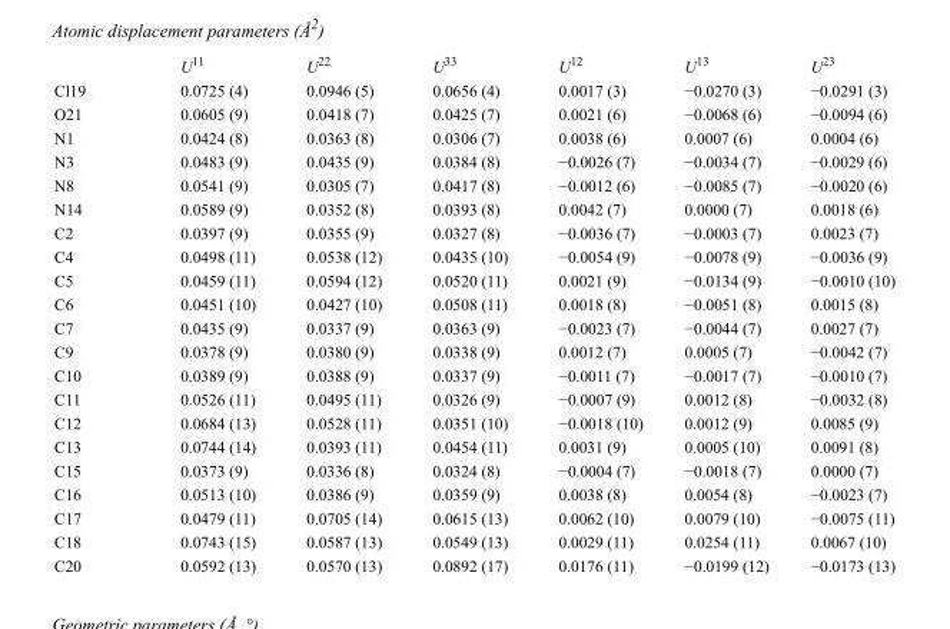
<table><thead><tr><td></td><td>U<sup>11</sup></td><td>U<sup>22</sup></td><td>U<sup>33</sup></td><td>U<sup>12</sup></td><td>U<sup>13</sup></td><td>U<sup>23</sup></td></tr></thead><tbody><tr><td>Cl19</td><td>0.0725 (4)</td><td>0.0946 (5)</td><td>0.0656 (4)</td><td>0.0017 (3)</td><td>−0.0270 (3)</td><td>−0.0291 (3)</td></tr><tr><td>O21</td><td>0.0605 (9)</td><td>0.0418 (7)</td><td>0.0425 (7)</td><td>0.0021 (6)</td><td>−0.0068 (6)</td><td>−0.0094 (6)</td></tr><tr><td>N1</td><td>0.0424 (8)</td><td>0.0363 (8)</td><td>0.0306 (7)</td><td>0.0038 (6)</td><td>0.0007 (6)</td><td>0.0004 (6)</td></tr><tr><td>N3</td><td>0.0483 (9)</td><td>0.0435 (9)</td><td>0.0384 (8)</td><td>−0.0026 (7)</td><td>−0.0034 (7)</td><td>−0.0029 (6)</td></tr><tr><td>N8</td><td>0.0541 (9)</td><td>0.0305 (7)</td><td>0.0417 (8)</td><td>−0.0012 (6)</td><td>−0.0085 (7)</td><td>−0.0020 (6)</td></tr><tr><td>N14</td><td>0.0589 (9)</td><td>0.0352 (8)</td><td>0.0393 (8)</td><td>0.0042 (7)</td><td>0.0000 (7)</td><td>0.0018 (6)</td></tr><tr><td>C2</td><td>0.0397 (9)</td><td>0.0355 (9)</td><td>0.0327 (8)</td><td>−0.0036 (7)</td><td>−0.0003 (7)</td><td>0.0023 (7)</td></tr><tr><td>C4</td><td>0.0498 (11)</td><td>0.0538 (12)</td><td>0.0435 (10)</td><td>−0.0054 (9)</td><td>−0.0078 (9)</td><td>−0.0036 (9)</td></tr><tr><td>C5</td><td>0.0459 (11)</td><td>0.0594 (12)</td><td>0.0520 (11)</td><td>0.0021 (9)</td><td>−0.0134 (9)</td><td>−0.0010 (10)</td></tr><tr><td>C6</td><td>0.0451 (10)</td><td>0.0427 (10)</td><td>0.0508 (11)</td><td>0.0018 (8)</td><td>−0.0051 (8)</td><td>0.0015 (8)</td></tr><tr><td>C7</td><td>0.0435 (9)</td><td>0.0337 (9)</td><td>0.0363 (9)</td><td>−0.0023 (7)</td><td>−0.0044 (7)</td><td>0.0027 (7)</td></tr><tr><td>C9</td><td>0.0378 (9)</td><td>0.0380 (9)</td><td>0.0338 (9)</td><td>0.0012 (7)</td><td>0.0005 (7)</td><td>−0.0042 (7)</td></tr><tr><td>C10</td><td>0.0389 (9)</td><td>0.0388 (9)</td><td>0.0337 (9)</td><td>−0.0011 (7)</td><td>−0.0017 (7)</td><td>−0.0010 (7)</td></tr><tr><td>C11</td><td>0.0526 (11)</td><td>0.0495 (11)</td><td>0.0326 (9)</td><td>−0.0007 (9)</td><td>0.0012 (8)</td><td>−0.0032 (8)</td></tr><tr><td>C12</td><td>0.0684 (13)</td><td>0.0528 (11)</td><td>0.0351 (10)</td><td>−0.0018 (10)</td><td>0.0012 (9)</td><td>0.0085 (9)</td></tr><tr><td>C13</td><td>0.0744 (14)</td><td>0.0393 (11)</td><td>0.0454 (11)</td><td>0.0031 (9)</td><td>0.0005 (10)</td><td>0.0091 (8)</td></tr><tr><td>C15</td><td>0.0373 (9)</td><td>0.0336 (8)</td><td>0.0324 (8)</td><td>−0.0004 (7)</td><td>−0.0018 (7)</td><td>0.0000 (7)</td></tr><tr><td>C16</td><td>0.0513 (10)</td><td>0.0386 (9)</td><td>0.0359 (9)</td><td>0.0038 (8)</td><td>0.0054 (8)</td><td>−0.0023 (7)</td></tr><tr><td>C17</td><td>0.0479 (11)</td><td>0.0705 (14)</td><td>0.0615 (13)</td><td>0.0062 (10)</td><td>0.0079 (10)</td><td>−0.0075 (11)</td></tr><tr><td>C18</td><td>0.0743 (15)</td><td>0.0587 (13)</td><td>0.0549 (13)</td><td>0.0029 (11)</td><td>0.0254 (11)</td><td>0.0067 (10)</td></tr><tr><td>C20</td><td>0.0592 (13)</td><td>0.0570 (13)</td><td>0.0892 (17)</td><td>0.0176 (11)</td><td>−0.0199 (12)</td><td>−0.0173 (13)</td></tr></tbody></table>